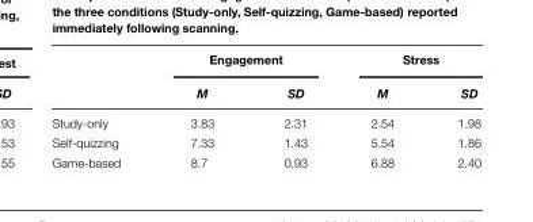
<table><thead><tr><td rowspan="2"></td><td colspan="2">Engagement</td><td colspan="2">Stress</td></tr><tr><td>M</td><td>SD</td><td>M</td><td>SD</td></tr></thead><tbody><tr><td>Study-only</td><td>3.83</td><td>2.31</td><td>2.54</td><td>1.98</td></tr><tr><td>Self-quizzing</td><td>7.33</td><td>1.43</td><td>5.54</td><td>1.86</td></tr><tr><td>Game-based</td><td>8.7</td><td>0.93</td><td>6.88</td><td>2.40</td></tr></tbody></table>